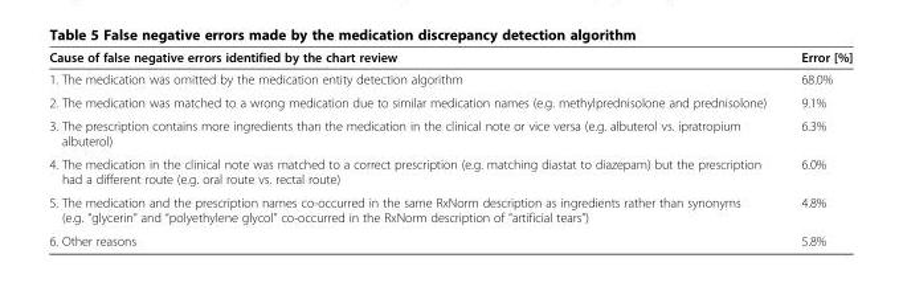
<table><thead><tr><td>Cause of false negative errors identified by the chart review</td><td>Error [%]</td></tr></thead><tbody><tr><td>1. The medication was omitted by the medication entity detection algorithm</td><td>68.0%</td></tr><tr><td>2. The medication was matched to a wrong medication due to similar medication names (e.g. methylprednisolone and prednisolone)</td><td>9.1%</td></tr><tr><td>3. The prescription contains more ingredients than the medication in the clinical note or vice versa (e.g. albuterol vs. ipratropium albuterol)</td><td>6.3%</td></tr><tr><td>4. The medication in the clinical note was matched to a correct prescription (e.g. matching diastat to diazepam) but the prescription had a different route (e.g. oral route vs. rectal route)</td><td>6.0%</td></tr><tr><td>5. The medication and the prescription names co-occurred in the same RxNorm description as ingredients rather than synonyms (e.g. “glycerin” and “polyethylene glycol” co-occurred in the RxNorm description of “artificial tears”)</td><td>4.8%</td></tr><tr><td>6. Other reasons</td><td>5.8%</td></tr></tbody></table>